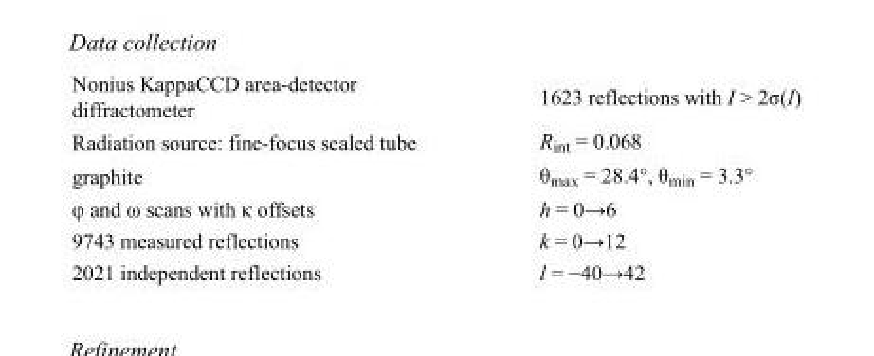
<table><tbody><tr><td>Nonius KappaCCD area-detector diffractometer</td><td>1623 reflections with I &gt; 2σ(I)</td></tr><tr><td>Radiation source: fine-focus sealed tube</td><td>R<sub>int</sub> = 0.068</td></tr><tr><td>graphite</td><td>θ<sub>max</sub> = 28.4°, θ<sub>min</sub> = 3.3°</td></tr><tr><td>φ and ω scans with κ offsets</td><td>h = 0→6</td></tr><tr><td>9743 measured reflections</td><td>k = 0→12</td></tr><tr><td>2021 independent reflections</td><td>l = −40→42</td></tr></tbody></table>